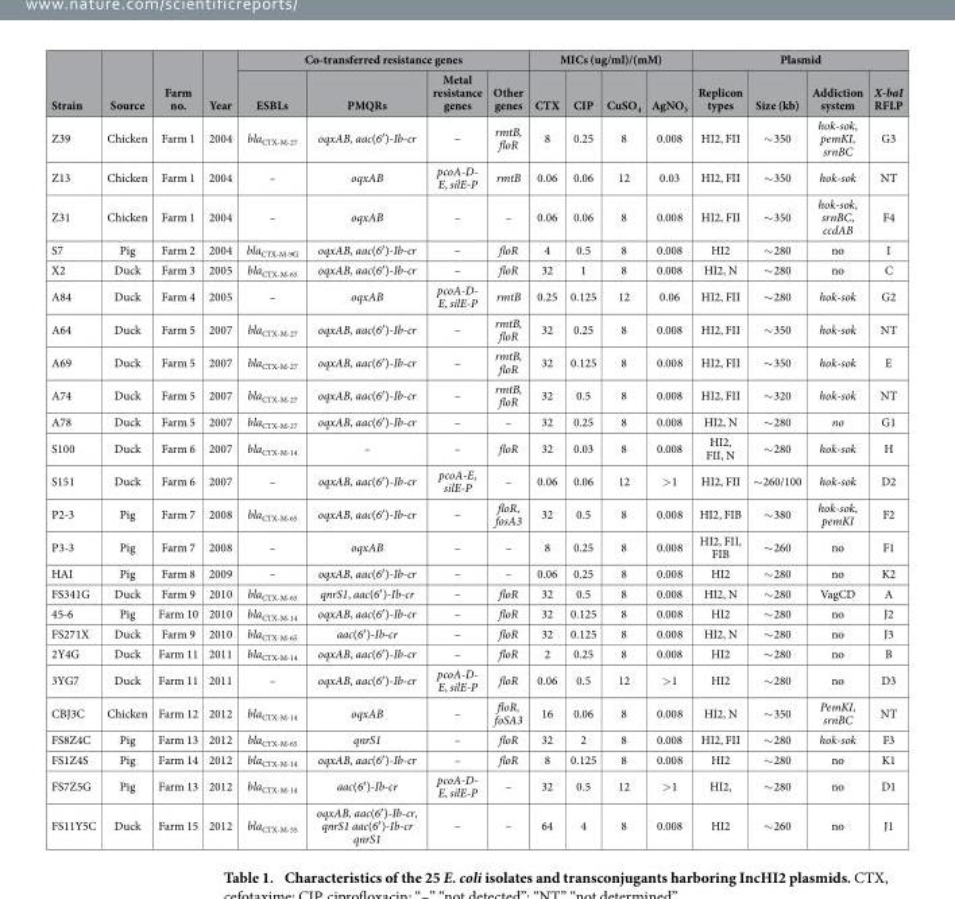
<table><thead><tr><td rowspan="2">Strain</td><td rowspan="2">Source</td><td rowspan="2">Farm no.</td><td rowspan="2">Year</td><td colspan="4">Co-transferred resistance genes</td><td colspan="4">MICs (ug/ml)/(mM)</td><td colspan="4">Plasmid</td></tr><tr><td>ESBLs</td><td>PMQRs</td><td>Metal resistance genes</td><td>Other genes</td><td>CTX</td><td>CIP</td><td>CuSO<sub>4</sub></td><td>AgNO<sub>3</sub></td><td>Replicon types</td><td>Size (kb)</td><td>Addiction system</td><td>X-baI RFLP</td></tr></thead><tbody><tr><td>Z39</td><td>Chicken</td><td>Farm 1</td><td>2004</td><td>bla<sub>CTX-M-27</sub></td><td>oqxAB, aac(6′ )-Ib-cr</td><td>–</td><td>rmtB, floR</td><td>8</td><td>0.25</td><td>8</td><td>0.008</td><td>HI2, FII</td><td>∼ 350</td><td>hok-sok, pemKI, srnBC</td><td>G3</td></tr><tr><td>Z13</td><td>Chicken</td><td>Farm 1</td><td>2004</td><td>–</td><td>oqxAB</td><td>pcoA-D- E, silE-P</td><td>rmtB</td><td>0.06</td><td>0.06</td><td>12</td><td>0.03</td><td>HI2, FII</td><td>∼ 350</td><td>hok-sok</td><td>NT</td></tr><tr><td>Z31</td><td>Chicken</td><td>Farm 1</td><td>2004</td><td>–</td><td>oqxAB</td><td>–</td><td>–</td><td>0.06</td><td>0.06</td><td>8</td><td>0.008</td><td>HI2, FII</td><td>∼ 350</td><td>hok-sok, srnBC, ccdAB</td><td>F4</td></tr><tr><td>S7</td><td>Pig</td><td>Farm 2</td><td>2004</td><td>bla<sub>CTX-M-9G</sub></td><td>oqxAB, aac(6′ )-Ib-cr</td><td>–</td><td>floR</td><td>4</td><td>0.5</td><td>8</td><td>0.008</td><td>HI2</td><td>∼ 280</td><td>no</td><td>I</td></tr><tr><td>X2</td><td>Duck</td><td>Farm 3</td><td>2005</td><td>bla<sub>CTX-M-65</sub></td><td>oqxAB, aac(6′ )-Ib-cr</td><td>–</td><td>floR</td><td>32</td><td>1</td><td>8</td><td>0.008</td><td>HI2, N</td><td>∼ 280</td><td>no</td><td>C</td></tr><tr><td>A84</td><td>Duck</td><td>Farm 4</td><td>2005</td><td>–</td><td>oqxAB</td><td>pcoA-D- E, silE-P</td><td>rmtB</td><td>0.25</td><td>0.125</td><td>12</td><td>0.06</td><td>HI2, FII</td><td>∼ 280</td><td>hok-sok</td><td>G2</td></tr><tr><td>A64</td><td>Duck</td><td>Farm 5</td><td>2007</td><td>bla<sub>CTX-M-27</sub></td><td>oqxAB, aac(6′ )-Ib-cr</td><td>–</td><td>rmtB, floR</td><td>32</td><td>0.25</td><td>8</td><td>0.008</td><td>HI2, FII</td><td>∼ 350</td><td>hok-sok</td><td>NT</td></tr><tr><td>A69</td><td>Duck</td><td>Farm 5</td><td>2007</td><td>bla<sub>CTX-M-27</sub></td><td>oqxAB, aac(6′ )-Ib-cr</td><td>–</td><td>rmtB, floR</td><td>32</td><td>0.125</td><td>8</td><td>0.008</td><td>HI2, FII</td><td>∼ 350</td><td>hok-sok</td><td>E</td></tr><tr><td>A74</td><td>Duck</td><td>Farm 5</td><td>2007</td><td>bla<sub>CTX-M-27</sub></td><td>oqxAB, aac(6′ )-Ib-cr</td><td>–</td><td>rmtB, floR</td><td>32</td><td>0.5</td><td>8</td><td>0.008</td><td>HI2, FII</td><td>∼ 320</td><td>hok-sok</td><td>NT</td></tr><tr><td>A78</td><td>Duck</td><td>Farm 5</td><td>2007</td><td>bla<sub>CTX-M-27</sub></td><td>oqxAB, aac(6′ )-Ib-cr</td><td>–</td><td>–</td><td>32</td><td>0.25</td><td>8</td><td>0.008</td><td>HI2, N</td><td>∼ 280</td><td>no</td><td>G1</td></tr><tr><td>S100</td><td>Duck</td><td>Farm 6</td><td>2007</td><td>bla<sub>CTX-M-14</sub></td><td>–</td><td>–</td><td>floR</td><td>32</td><td>0.03</td><td>8</td><td>0.008</td><td>HI2, FII, N</td><td>∼ 280</td><td>hok-sok</td><td>H</td></tr><tr><td>S151</td><td>Duck</td><td>Farm 6</td><td>2007</td><td>–</td><td>oqxAB, aac(6′ )-Ib-cr</td><td>pcoA-E, silE-P</td><td>–</td><td>0.06</td><td>0.06</td><td>12</td><td>&gt; 1</td><td>HI2, FII</td><td>∼ 260/100</td><td>hok-sok</td><td>D2</td></tr><tr><td>P2-3</td><td>Pig</td><td>Farm 7</td><td>2008</td><td>bla<sub>CTX-M-65</sub></td><td>oqxAB, aac(6′ )-Ib-cr</td><td>–</td><td>floR, fosA3</td><td>32</td><td>0.5</td><td>8</td><td>0.008</td><td>HI2, FIB</td><td>∼ 380</td><td>hok-sok, pemKI</td><td>F2</td></tr><tr><td>P3-3</td><td>Pig</td><td>Farm 7</td><td>2008</td><td>–</td><td>oqxAB</td><td>–</td><td>–</td><td>8</td><td>0.25</td><td>8</td><td>0.008</td><td>HI2, FII, FIB</td><td>∼ 260</td><td>no</td><td>F1</td></tr><tr><td>HAI</td><td>Pig</td><td>Farm 8</td><td>2009</td><td>–</td><td>oqxAB, aac(6′ )-Ib-cr</td><td>–</td><td>–</td><td>0.06</td><td>0.25</td><td>8</td><td>0.008</td><td>HI2</td><td>∼ 280</td><td>no</td><td>K2</td></tr><tr><td>FS341G</td><td>Duck</td><td>Farm 9</td><td>2010</td><td>bla<sub>CTX-M-65</sub></td><td>qnrS1, aac(6′ )-Ib-cr</td><td>–</td><td>floR</td><td>32</td><td>0.5</td><td>8</td><td>0.008</td><td>HI2, N</td><td>∼ 280</td><td>VagCD</td><td>A</td></tr><tr><td>45-6</td><td>Pig</td><td>Farm 10</td><td>2010</td><td>bla<sub>CTX-M-14</sub></td><td>oqxAB, aac(6′ )-Ib-cr</td><td>–</td><td>floR</td><td>32</td><td>0.125</td><td>8</td><td>0.008</td><td>HI2</td><td>∼ 280</td><td>no</td><td>J2</td></tr><tr><td>FS271X</td><td>Duck</td><td>Farm 9</td><td>2010</td><td>bla<sub>CTX-M-65</sub></td><td>aac(6′ )-Ib-cr</td><td>–</td><td>floR</td><td>32</td><td>0.125</td><td>8</td><td>0.008</td><td>HI2, N</td><td>∼ 280</td><td>no</td><td>J3</td></tr><tr><td>2Y4G</td><td>Duck</td><td>Farm 11</td><td>2011</td><td>bla<sub>CTX-M-14</sub></td><td>oqxAB, aac(6′ )-Ib-cr</td><td>–</td><td>floR</td><td>2</td><td>0.25</td><td>8</td><td>0.008</td><td>HI2</td><td>∼ 280</td><td>no</td><td>B</td></tr><tr><td>3YG7</td><td>Duck</td><td>Farm 11</td><td>2011</td><td>–</td><td>oqxAB, aac(6′ )-Ib-cr</td><td>pcoA-D- E, silE-P</td><td>floR</td><td>0.06</td><td>0.5</td><td>12</td><td>&gt; 1</td><td>HI2</td><td>∼ 280</td><td>no</td><td>D3</td></tr><tr><td>CBJ3C</td><td>Chicken</td><td>Farm 12</td><td>2012</td><td>bla<sub>CTX-M-14</sub></td><td>oqxAB</td><td>–</td><td>floR, foSA3</td><td>16</td><td>0.06</td><td>8</td><td>0.008</td><td>HI2, N</td><td>∼ 350</td><td>PemKI, srnBC</td><td>NT</td></tr><tr><td>FS8Z4C</td><td>Pig</td><td>Farm 13</td><td>2012</td><td>bla<sub>CTX-M-65</sub></td><td>qnrS1</td><td>–</td><td>floR</td><td>32</td><td>2</td><td>8</td><td>0.008</td><td>HI2, FII</td><td>∼ 280</td><td>hok-sok</td><td>F3</td></tr><tr><td>FS1Z4S</td><td>Pig</td><td>Farm 14</td><td>2012</td><td>bla<sub>CTX-M-14</sub></td><td>oqxAB, aac(6′ )-Ib-cr</td><td>–</td><td>floR</td><td>8</td><td>0.125</td><td>8</td><td>0.008</td><td>HI2</td><td>∼ 280</td><td>no</td><td>K1</td></tr><tr><td>FS7Z5G</td><td>Pig</td><td>Farm 13</td><td>2012</td><td>bla<sub>CTX-M-14</sub></td><td>aac(6′ )-Ib-cr</td><td>pcoA-D- E, silE-P</td><td>–</td><td>32</td><td>0.5</td><td>12</td><td>&gt; 1</td><td>HI2,</td><td>∼ 280</td><td>no</td><td>D1</td></tr><tr><td>FS11Y5C</td><td>Duck</td><td>Farm 15</td><td>2012</td><td>bla<sub>CTX-M-55</sub></td><td>oqxAB, aac(6′ )-Ib-cr, qnrS1 aac(6′ )-Ib-cr qnrS1</td><td>–</td><td>–</td><td>64</td><td>4</td><td>8</td><td>0.008</td><td>HI2</td><td>∼ 260</td><td>no</td><td>J1</td></tr></tbody></table>